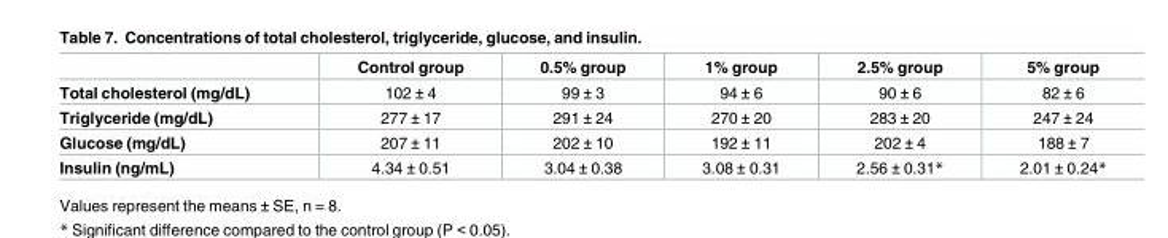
<table><thead><tr><td></td><td>Control group</td><td>0.5% group</td><td>1% group</td><td>2.5% group</td><td>5% group</td></tr></thead><tbody><tr><td>Total cholesterol (mg/dL)</td><td>102 ± 4</td><td>99 ± 3</td><td>94 ± 6</td><td>90 ± 6</td><td>82 ± 6</td></tr><tr><td>Triglyceride (mg/dL)</td><td>277 ± 17</td><td>291 ± 24</td><td>270 ± 20</td><td>283 ± 20</td><td>247 ± 24</td></tr><tr><td>Glucose (mg/dL)</td><td>207 ± 11</td><td>202 ± 10</td><td>192 ± 11</td><td>202 ± 4</td><td>188 ± 7</td></tr><tr><td>Insulin (ng/mL)</td><td>4.34 ± 0.51</td><td>3.04 ± 0.38</td><td>3.08 ± 0.31</td><td>2.56 ± 0.31*</td><td>2.01 ± 0.24*</td></tr></tbody></table>